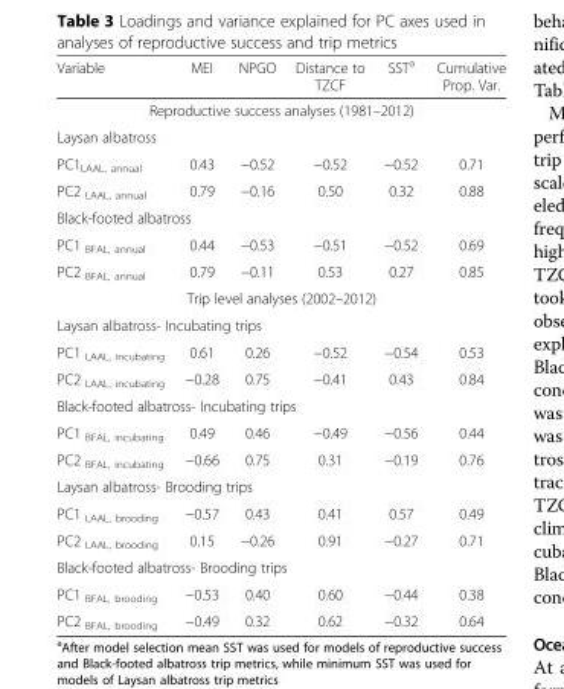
<table><thead><tr><td>Variable</td><td>MEI</td><td>NPGO</td><td>Distance to TZCF</td><td>SST<sup>a</sup></td><td>Cumulative Prop. Var.</td></tr></thead><tbody><tr><td colspan="6">Reproductive success analyses (1981–2012)</td></tr><tr><td colspan="6">Laysan albatross</td></tr><tr><td>PC1<sub>LAAL, annual</sub></td><td>0.43</td><td>−0.52</td><td>−0.52</td><td>−0.52</td><td>0.71</td></tr><tr><td>PC2 <sub>LAAL, annual</sub></td><td>0.79</td><td>−0.16</td><td>0.50</td><td>0.32</td><td>0.88</td></tr><tr><td colspan="6">Black-footed albatross</td></tr><tr><td>PC1 <sub>BFAL, annual</sub></td><td>0.44</td><td>−0.53</td><td>−0.51</td><td>−0.52</td><td>0.69</td></tr><tr><td>PC2 <sub>BFAL, annual</sub></td><td>0.79</td><td>−0.11</td><td>0.53</td><td>0.27</td><td>0.85</td></tr><tr><td colspan="6">Trip level analyses (2002–2012)</td></tr><tr><td colspan="6">Laysan albatross- Incubating trips</td></tr><tr><td>PC1 <sub>LAAL, incubating</sub></td><td>0.61</td><td>0.26</td><td>−0.52</td><td>−0.54</td><td>0.53</td></tr><tr><td>PC2 <sub>LAAL, incubating</sub></td><td>−0.28</td><td>0.75</td><td>−0.41</td><td>0.43</td><td>0.84</td></tr><tr><td colspan="6">Black-footed albatross- Incubating trips</td></tr><tr><td>PC1 <sub>BFAL, incubating</sub></td><td>0.49</td><td>0.46</td><td>−0.49</td><td>−0.56</td><td>0.44</td></tr><tr><td>PC2 <sub>BFAL, incubating</sub></td><td>−0.66</td><td>0.75</td><td>0.31</td><td>−0.19</td><td>0.76</td></tr><tr><td colspan="6">Laysan albatross- Brooding trips</td></tr><tr><td>PC1 <sub>LAAL, brooding</sub></td><td>−0.57</td><td>0.43</td><td>0.41</td><td>0.57</td><td>0.49</td></tr><tr><td>PC2 <sub>LAAL, brooding</sub></td><td>0.15</td><td>−0.26</td><td>0.91</td><td>−0.27</td><td>0.71</td></tr><tr><td colspan="6">Black-footed albatross- Brooding trips</td></tr><tr><td>PC1 <sub>BFAL, brooding</sub></td><td>−0.53</td><td>0.40</td><td>0.60</td><td>−0.44</td><td>0.38</td></tr><tr><td>PC2 <sub>BFAL, brooding</sub></td><td>−0.49</td><td>0.32</td><td>0.62</td><td>−0.32</td><td>0.64</td></tr></tbody></table>